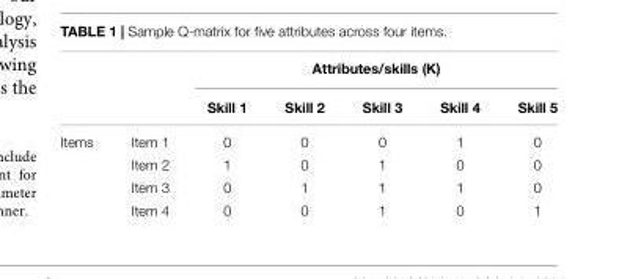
<table><thead><tr><td rowspan="2"></td><td rowspan="2"></td><td colspan="5">Attributes/skills (K)</td></tr><tr><td>Skill 1</td><td>Skill 2</td><td>Skill 3</td><td>Skill 4</td><td>Skill 5</td></tr></thead><tbody><tr><td rowspan="4">Items</td><td>Item 1</td><td>0</td><td>0</td><td>0</td><td>1</td><td>0</td></tr><tr><td>Item 2</td><td>1</td><td>0</td><td>1</td><td>0</td><td>0</td></tr><tr><td>Item 3</td><td>0</td><td>1</td><td>1</td><td>1</td><td>0</td></tr><tr><td>Item 4</td><td>0</td><td>0</td><td>1</td><td>0</td><td>1</td></tr></tbody></table>